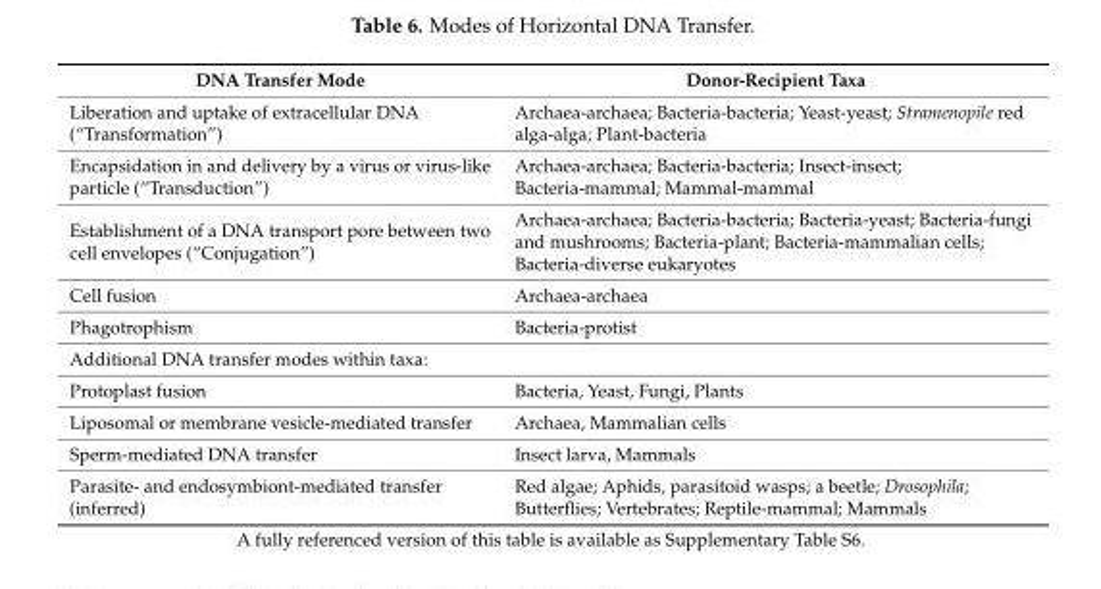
<table><thead><tr><td>DNA Transfer Mode</td><td>Donor-Recipient Taxa</td></tr></thead><tbody><tr><td>Liberation and uptake of extracellular DNA (“Transformation”)</td><td>Archaea-archaea; Bacteria-bacteria; Yeast-yeast; Stramenopile red alga-alga; Plant-bacteria</td></tr><tr><td>Encapsidation in and delivery by a virus or virus-like particle (“Transduction”)</td><td>Archaea-archaea; Bacteria-bacteria; Insect-insect; Bacteria-mammal; Mammal-mammal</td></tr><tr><td>Establishment of a DNA transport pore between two cell envelopes (“Conjugation”)</td><td>Archaea-archaea; Bacteria-bacteria; Bacteria-yeast; Bacteria-fungi and mushrooms; Bacteria-plant; Bacteria-mammalian cells; Bacteria-diverse eukaryotes</td></tr><tr><td>Cell fusion</td><td>Archaea-archaea</td></tr><tr><td>Phagotrophism</td><td>Bacteria-protist</td></tr><tr><td colspan="2">Additional DNA transfer modes within taxa:</td></tr><tr><td>Protoplast fusion</td><td>Bacteria, Yeast, Fungi, Plants</td></tr><tr><td>Liposomal or membrane vesicle-mediated transfer</td><td>Archaea, Mammalian cells</td></tr><tr><td>Sperm-mediated DNA transfer</td><td>Insect larva, Mammals</td></tr><tr><td>Parasite- and endosymbiont-mediated transfer (inferred)</td><td>Red algae; Aphids, parasitoid wasps; a beetle; Drosophila; Butterflies; Vertebrates; Reptile-mammal; Mammals</td></tr></tbody></table>